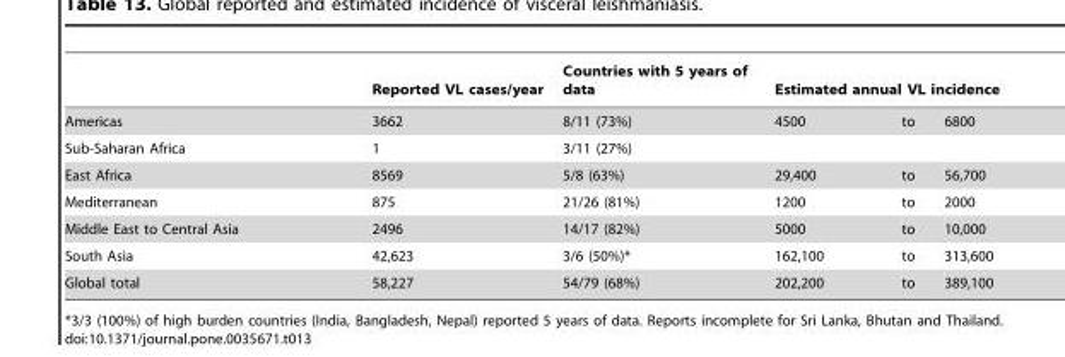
<table><thead><tr><td rowspan="2">Americas</td><td rowspan="2">Reported VL cases/year 3662</td><td rowspan="2">Countries with 5 years of data 8/11 (73%)</td><td colspan="3">Estimated annual VL incidence</td></tr><tr><td>4500</td><td>to</td><td>6800</td></tr></thead><tbody><tr><td>Sub-Saharan Africa</td><td>1</td><td>3/11 (27%)</td><td></td><td></td><td></td></tr><tr><td>East Africa</td><td>8569</td><td>5/8 (63%)</td><td>29,400</td><td>to</td><td>56,700</td></tr><tr><td>Mediterranean</td><td>875</td><td>21/26 (81%)</td><td>1200</td><td>to</td><td>2000</td></tr><tr><td>Middle East to Central Asia</td><td>2496</td><td>14/17 (82%)</td><td>5000</td><td>to</td><td>10,000</td></tr><tr><td>South Asia</td><td>42,623</td><td>3/6 (50%)*</td><td>162,100</td><td>to</td><td>313,600</td></tr><tr><td>Global total</td><td>58,227</td><td>54/79 (68%)</td><td>202,200</td><td>to</td><td>389,100</td></tr></tbody></table>